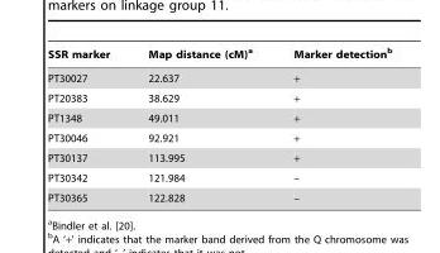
<table><thead><tr><td>SSR marker</td><td>Map distance (cM)<sup>a</sup></td><td>Marker detection<sup>b</sup></td></tr></thead><tbody><tr><td>PT30027</td><td>22.637</td><td>+</td></tr><tr><td>PT20383</td><td>38.629</td><td>+</td></tr><tr><td>PT1348</td><td>49.011</td><td>+</td></tr><tr><td>PT30046</td><td>92.921</td><td>+</td></tr><tr><td>PT30137</td><td>113.995</td><td>+</td></tr><tr><td>PT30342</td><td>121.984</td><td>–</td></tr><tr><td>PT30365</td><td>122.828</td><td>–</td></tr></tbody></table>